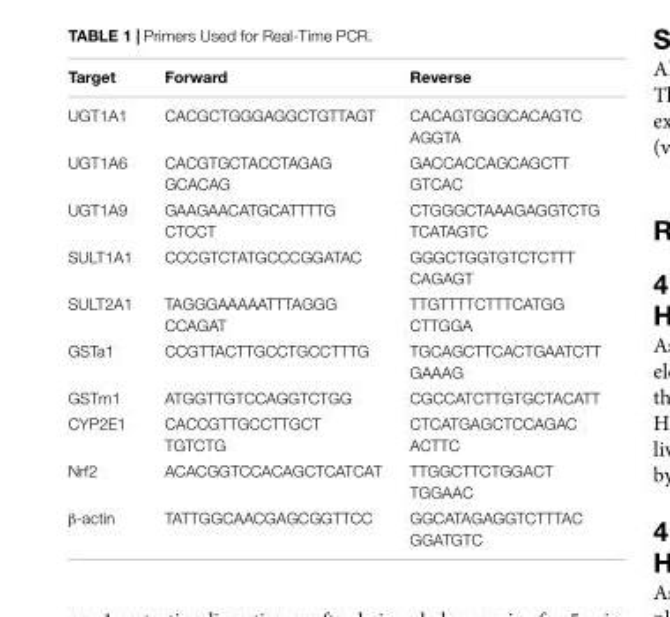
<table><thead><tr><td>Target</td><td>Forward</td><td>Reverse</td></tr></thead><tbody><tr><td>UGT1A1</td><td>CACGCTGGGAGGCTGTTAGT</td><td>CACAGTGGGCACAGTC AGGTA</td></tr><tr><td>UGT1A6</td><td>CACGTGCTACCTAGAG GCACAG</td><td>GACCACCAGCAGCTT GTCAC</td></tr><tr><td>UGT1A9</td><td>GAAGAACATGCATTTTG CTCCT</td><td>CTGGGCTAAAGAGGTCTG TCATAGTC</td></tr><tr><td>SULT1A1</td><td>CCCGTCTATGCCCGGATAC</td><td>GGGCTGGTGTCTCTTT CAGAGT</td></tr><tr><td>SULT2A1</td><td>TAGGGAAAAATTTAGGG CCAGAT</td><td>TTGTTTTCTTTCATGG CTTGGA</td></tr><tr><td>GSTa1</td><td>CCGTTACTTGCCTGCCTTTG</td><td>TGCAGCTTCACTGAATCTT GAAAG</td></tr><tr><td>GSTm1</td><td>ATGGTTGTCCAGGTCTGG</td><td>CGCCATCTTGTGCTACATT</td></tr><tr><td>CYP2E1</td><td>CACCGTTGCCTTGCT TGTCTG</td><td>CTCATGAGCTCCAGAC ACTTC</td></tr><tr><td>Nrf2</td><td>ACACGGTCCACAGCTCATCAT</td><td>TTGGCTTCTGGACT TGGAAC</td></tr><tr><td>β-actin</td><td>TATTGGCAACGAGCGGTTCC</td><td>GGCATAGAGGTCTTTAC GGATGTC</td></tr></tbody></table>